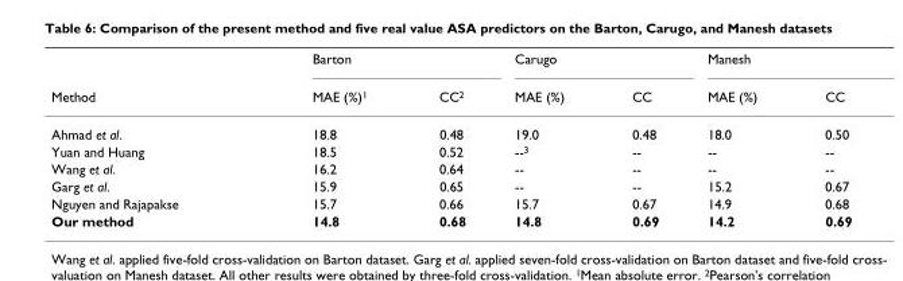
<table><thead><tr><td rowspan="2">Method</td><td colspan="2">Barton</td><td colspan="2">Carugo</td><td colspan="2">Manesh</td></tr><tr><td>MAE (%)<sup>1</sup></td><td>CC<sup>2</sup></td><td>MAE (%)</td><td>CC</td><td>MAE (%)</td><td>CC</td></tr></thead><tbody><tr><td>Ahmad et al.</td><td>18.8</td><td>0.48</td><td>19.0</td><td>0.48</td><td>18.0</td><td>0.50</td></tr><tr><td>Yuan and Huang</td><td>18.5</td><td>0.52</td><td>--<sup>3</sup></td><td>--</td><td>--</td><td>--</td></tr><tr><td>Wang et al.</td><td>16.2</td><td>0.64</td><td>--</td><td>--</td><td>--</td><td>--</td></tr><tr><td>Garg et al.</td><td>15.9</td><td>0.65</td><td>--</td><td>--</td><td>15.2</td><td>0.67</td></tr><tr><td>Nguyen and Rajapakse</td><td>15.7</td><td>0.66</td><td>15.7</td><td>0.67</td><td>14.9</td><td>0.68</td></tr><tr><td>Our method</td><td>14.8</td><td>0.68</td><td>14.8</td><td>0.69</td><td>14.2</td><td>0.69</td></tr></tbody></table>